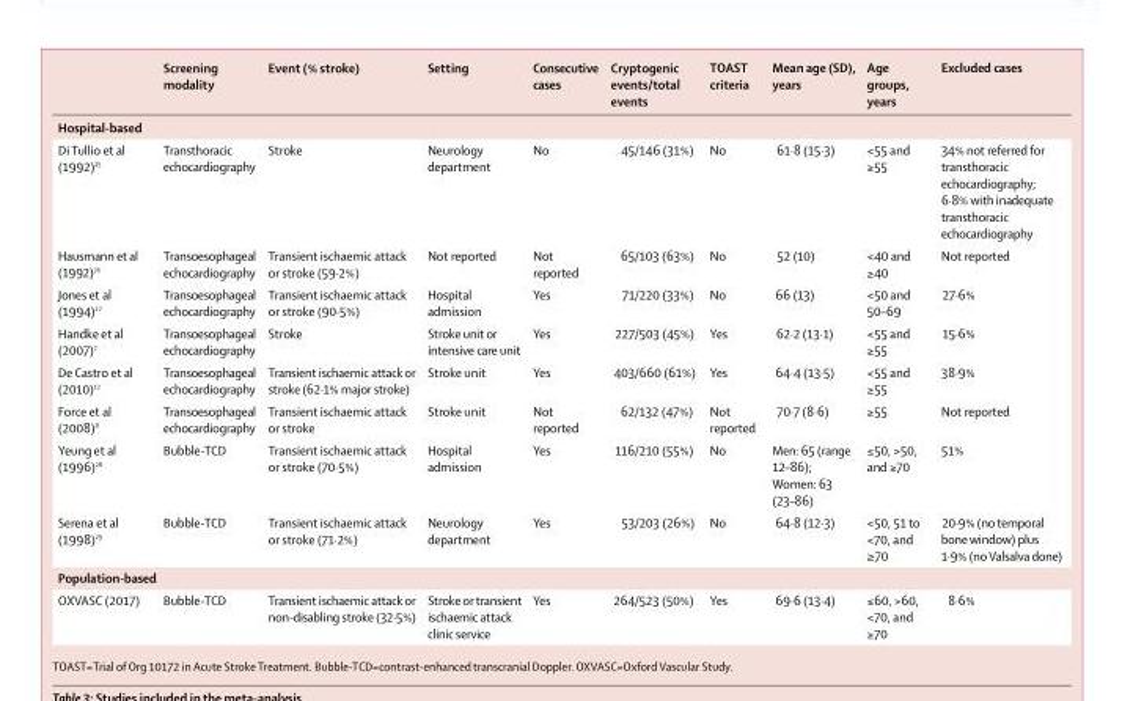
<table><thead><tr><td></td><td>Screening modality</td><td>Event (% stroke)</td><td>Setting</td><td>Consecutive cases</td><td>Cryptogenic events/total events</td><td>TOAST criteria</td><td>Mean age (SD), years</td><td>Age groups, years</td><td>Excluded cases</td></tr></thead><tbody><tr><td colspan="10">Hospital-based</td></tr><tr><td>Di Tullio et al (1992)<sup>25</sup></td><td>Transthoracic echocardiography</td><td>Stroke</td><td>Neurology department</td><td>No</td><td>45/146 (31%)</td><td>No</td><td>61·8 (15·3)</td><td>&lt;55 and ≥55</td><td>34% not referred for transthoracic echocardiography; 6·8% with inadequate transthoracic echocardiography</td></tr><tr><td>Hausmann et al (1992)<sup>26</sup></td><td>Transoesophageal echocardiography</td><td>Transient ischaemic attack or stroke (59·2%)</td><td>Not reported</td><td>Not reported</td><td>65/103 (63%)</td><td>No</td><td>52 (10)</td><td>&lt;40 and ≥40</td><td>Not reported</td></tr><tr><td>Jones et al (1994)<sup>27</sup></td><td>Transoesophageal echocardiography</td><td>Transient ischaemic attack or stroke (90·5%)</td><td>Hospital admission</td><td>Yes</td><td>71/220 (33%)</td><td>No</td><td>66 (13)</td><td>&lt;50 and 50–69</td><td>27·6%</td></tr><tr><td>Handke et al (2007)<sup>7</sup></td><td>Transoesophageal echocardiography</td><td>Stroke</td><td>Stroke unit or intensive care unit</td><td>Yes</td><td>227/503 (45%)</td><td>Yes</td><td>62·2 (13·1)</td><td>&lt;55 and ≥55</td><td>15·6%</td></tr><tr><td>De Castro et al (2010)<sup>12</sup></td><td>Transoesophageal echocardiography</td><td>Transient ischaemic attack or stroke (62·1% major stroke)</td><td>Stroke unit</td><td>Yes</td><td>403/660 (61%)</td><td>Yes</td><td>64·4 (13·5)</td><td>&lt;55 and ≥55</td><td>38·9%</td></tr><tr><td>Force et al (2008)<sup>8</sup></td><td>Transoesophageal echocardiography</td><td>Transient ischaemic attack or stroke</td><td>Stroke unit</td><td>Not reported</td><td>62/132 (47%)</td><td>Not reported</td><td>70·7 (8·6)</td><td>≥55</td><td>Not reported</td></tr><tr><td>Yeung et al (1996)<sup>28</sup></td><td>Bubble-TCD</td><td>Transient ischaemic attack or stroke (70·5%)</td><td>Hospital admission</td><td>Yes</td><td>116/210 (55%)</td><td>No</td><td>Men: 65 (range 12–86); Women: 63 (23–86)</td><td>≤50, &gt;50, and ≥70</td><td>51%</td></tr><tr><td>Serena et al (1998)<sup>29</sup></td><td>Bubble-TCD</td><td>Transient ischaemic attack or stroke (71·2%)</td><td>Neurology department</td><td>Yes</td><td>53/203 (26%)</td><td>No</td><td>64·8 (12·3)</td><td>&lt;50, 51 to &lt;70, and ≥70</td><td>20·9% (no temporal bone window) plus 1·9% (no Valsalva done)</td></tr><tr><td colspan="10">Population-based</td></tr><tr><td>OXVASC (2017)</td><td>Bubble-TCD</td><td>Transient ischaemic attack or non-disabling stroke (32·5%)</td><td>Stroke or transient ischaemic attack clinic service</td><td>Yes</td><td>264/523 (50%)</td><td>Yes</td><td>69·6 (13·4)</td><td>≤60, &gt;60, &lt;70, and ≥70</td><td>8·6%</td></tr></tbody></table>